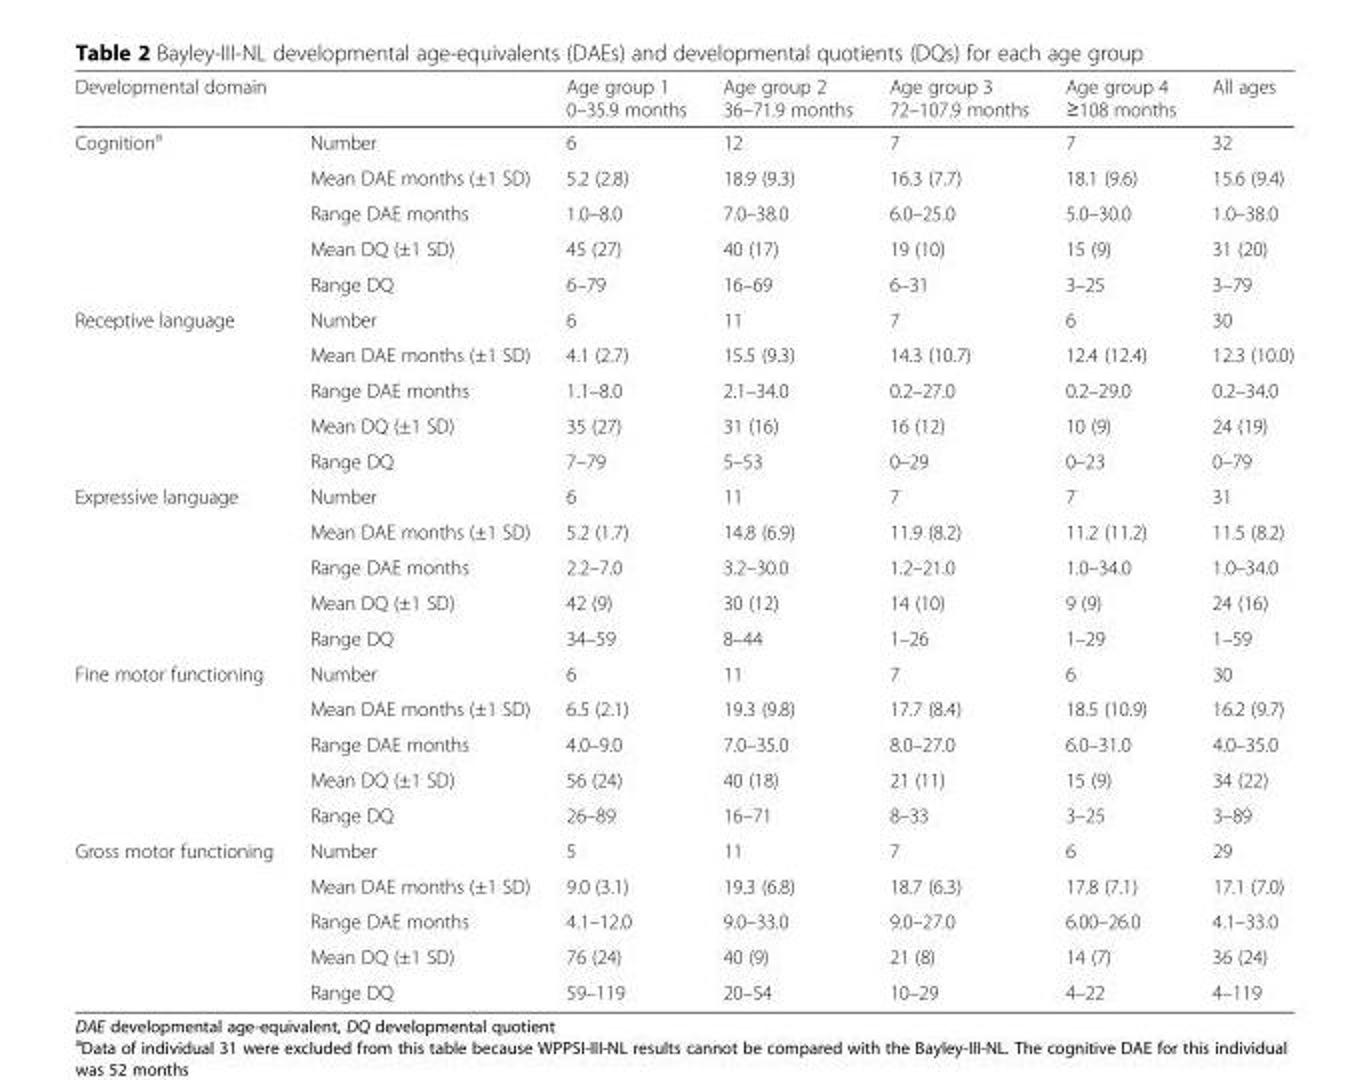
<table><thead><tr><td>Developmental domain</td><td></td><td>Age group 1 0–35.9 months</td><td>Age group 2 36–71.9 months</td><td>Age group 3 72–107.9 months</td><td>Age group 4 ≥108 months</td><td>All ages</td></tr></thead><tbody><tr><td rowspan="5">Cognition<sup>a</sup></td><td>Number</td><td>6</td><td>12</td><td>7</td><td>7</td><td>32</td></tr><tr><td>Mean DAE months (±1 SD)</td><td>5.2 (2.8)</td><td>18.9 (9.3)</td><td>16.3 (7.7)</td><td>18.1 (9.6)</td><td>15.6 (9.4)</td></tr><tr><td>Range DAE months</td><td>1.0–8.0</td><td>7.0–38.0</td><td>6.0–25.0</td><td>5.0–30.0</td><td>1.0–38.0</td></tr><tr><td>Mean DQ (±1 SD)</td><td>45 (27)</td><td>40 (17)</td><td>19 (10)</td><td>15 (9)</td><td>31 (20)</td></tr><tr><td>Range DQ</td><td>6–79</td><td>16–69</td><td>6–31</td><td>3–25</td><td>3–79</td></tr><tr><td rowspan="5">Receptive language</td><td>Number</td><td>6</td><td>11</td><td>7</td><td>6</td><td>30</td></tr><tr><td>Mean DAE months (±1 SD)</td><td>4.1 (2.7)</td><td>15.5 (9.3)</td><td>14.3 (10.7)</td><td>12.4 (12.4)</td><td>12.3 (10.0)</td></tr><tr><td>Range DAE months</td><td>1.1–8.0</td><td>2.1–34.0</td><td>0.2–27.0</td><td>0.2–29.0</td><td>0.2–34.0</td></tr><tr><td>Mean DQ (±1 SD)</td><td>35 (27)</td><td>31 (16)</td><td>16 (12)</td><td>10 (9)</td><td>24 (19)</td></tr><tr><td>Range DQ</td><td>7–79</td><td>5–53</td><td>0–29</td><td>0–23</td><td>0–79</td></tr><tr><td rowspan="5">Expressive language</td><td>Number</td><td>6</td><td>11</td><td>7</td><td>7</td><td>31</td></tr><tr><td>Mean DAE months (±1 SD)</td><td>5.2 (1.7)</td><td>14.8 (6.9)</td><td>11.9 (8.2)</td><td>11.2 (11.2)</td><td>11.5 (8.2)</td></tr><tr><td>Range DAE months</td><td>2.2–7.0</td><td>3.2–30.0</td><td>1.2–21.0</td><td>1.0–34.0</td><td>1.0–34.0</td></tr><tr><td>Mean DQ (±1 SD)</td><td>42 (9)</td><td>30 (12)</td><td>14 (10)</td><td>9 (9)</td><td>24 (16)</td></tr><tr><td>Range DQ</td><td>34–59</td><td>8–44</td><td>1–26</td><td>1–29</td><td>1–59</td></tr><tr><td rowspan="5">Fine motor functioning</td><td>Number</td><td>6</td><td>11</td><td>7</td><td>6</td><td>30</td></tr><tr><td>Mean DAE months (±1 SD)</td><td>6.5 (2.1)</td><td>19.3 (9.8)</td><td>17.7 (8.4)</td><td>18.5 (10.9)</td><td>16.2 (9.7)</td></tr><tr><td>Range DAE months</td><td>4.0–9.0</td><td>7.0–35.0</td><td>8.0–27.0</td><td>6.0–31.0</td><td>4.0–35.0</td></tr><tr><td>Mean DQ (±1 SD)</td><td>56 (24)</td><td>40 (18)</td><td>21 (11)</td><td>15 (9)</td><td>34 (22)</td></tr><tr><td>Range DQ</td><td>26–89</td><td>16–71</td><td>8–33</td><td>3–25</td><td>3–89</td></tr><tr><td rowspan="5">Gross motor functioning</td><td>Number</td><td>5</td><td>11</td><td>7</td><td>6</td><td>29</td></tr><tr><td>Mean DAE months (±1 SD)</td><td>9.0 (3.1)</td><td>19.3 (6.8)</td><td>18.7 (6.3)</td><td>17.8 (7.1)</td><td>17.1 (7.0)</td></tr><tr><td>Range DAE months</td><td>4.1–12.0</td><td>9.0–33.0</td><td>9.0–27.0</td><td>6.00–26.0</td><td>4.1–33.0</td></tr><tr><td>Mean DQ (±1 SD)</td><td>76 (24)</td><td>40 (9)</td><td>21 (8)</td><td>14 (7)</td><td>36 (24)</td></tr><tr><td>Range DQ</td><td>59–119</td><td>20–54</td><td>10–29</td><td>4–22</td><td>4–119</td></tr></tbody></table>